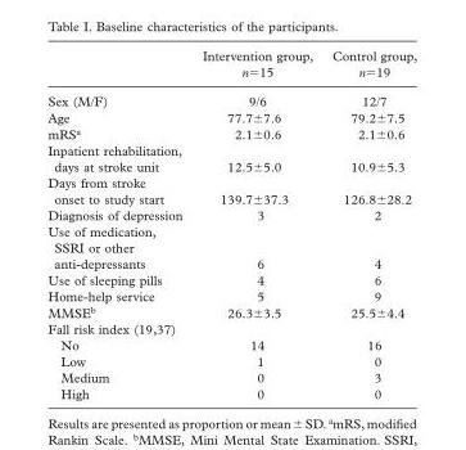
<table><thead><tr><td></td><td>Intervention group, n = 15</td><td>Control group, n = 19</td></tr></thead><tbody><tr><td>Sex (M/F)</td><td>9/6</td><td>12/7</td></tr><tr><td>Age</td><td>77.7 ± 7.6</td><td>79.2 ± 7.5</td></tr><tr><td>mRS <sup>a</sup></td><td>2.1 ± 0.6</td><td>2.1 ± 0.6</td></tr><tr><td>Inpatient rehabilitation, days at stroke unit</td><td>12.5 ± 5.0</td><td>10.9 ± 5.3</td></tr><tr><td>Days from stroke onset to study start</td><td>139.7 ± 37.3</td><td>126.8 ± 28.2</td></tr><tr><td>Diagnosis of depression</td><td>3</td><td>2</td></tr><tr><td>Use of medication, SSRI or other anti-depressants</td><td>6</td><td>4</td></tr><tr><td>Use of sleeping pills</td><td>4</td><td>6</td></tr><tr><td>Home-help service</td><td>5</td><td>9</td></tr><tr><td>MMSE <sup>b</sup></td><td>26.3 ± 3.5</td><td>25.5 ± 4.4</td></tr><tr><td colspan="3">Fall risk index (19,37)</td></tr><tr><td>No</td><td>14</td><td>16</td></tr><tr><td>Low</td><td>1</td><td>0</td></tr><tr><td>Medium</td><td>0</td><td>3</td></tr><tr><td>High</td><td>0</td><td>0</td></tr></tbody></table>